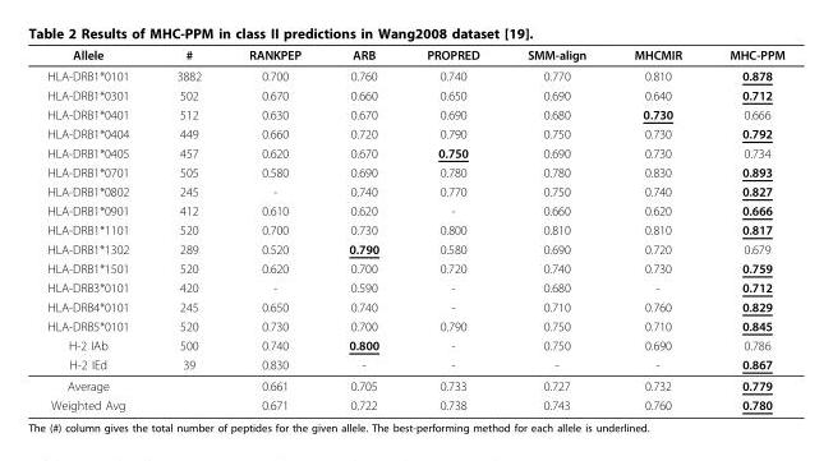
<table><thead><tr><td>Allele</td><td>#</td><td>RANKPEP</td><td>ARB</td><td>PROPRED</td><td>SMM-align</td><td>MHCMIR</td><td>MHC-PPM</td></tr></thead><tbody><tr><td>HLA-DRB1*0101</td><td>3882</td><td>0.700</td><td>0.760</td><td>0.740</td><td>0.770</td><td>0.810</td><td>0.878</td></tr><tr><td>HLA-DRB1*0301</td><td>502</td><td>0.670</td><td>0.660</td><td>0.650</td><td>0.690</td><td>0.640</td><td>0.712</td></tr><tr><td>HLA-DRB1*0401</td><td>512</td><td>0.630</td><td>0.670</td><td>0.690</td><td>0.680</td><td>0.730</td><td>0.666</td></tr><tr><td>HLA-DRB1*0404</td><td>449</td><td>0.660</td><td>0.720</td><td>0.790</td><td>0.750</td><td>0.730</td><td>0.792</td></tr><tr><td>HLA-DRB1*0405</td><td>457</td><td>0.620</td><td>0.670</td><td>0.750</td><td>0.690</td><td>0.730</td><td>0.734</td></tr><tr><td>HLA-DRB1*0701</td><td>505</td><td>0.580</td><td>0.690</td><td>0.780</td><td>0.780</td><td>0.830</td><td>0.893</td></tr><tr><td>HLA-DRB1*0802</td><td>245</td><td>-</td><td>0.740</td><td>0.770</td><td>0.750</td><td>0.740</td><td>0.827</td></tr><tr><td>HLA-DRB1*0901</td><td>412</td><td>0.610</td><td>0.620</td><td>-</td><td>0.660</td><td>0.620</td><td>0.666</td></tr><tr><td>HLA-DRB1*1101</td><td>520</td><td>0.700</td><td>0.730</td><td>0.800</td><td>0.810</td><td>0.810</td><td>0.817</td></tr><tr><td>HLA-DRB1*1302</td><td>289</td><td>0.520</td><td>0.790</td><td>0.580</td><td>0.690</td><td>0.720</td><td>0.679</td></tr><tr><td>HLA-DRB1*1501</td><td>520</td><td>0.620</td><td>0.700</td><td>0.720</td><td>0.740</td><td>0.730</td><td>0.759</td></tr><tr><td>HLA-DRB3*0101</td><td>420</td><td>-</td><td>0.590</td><td>-</td><td>0.680</td><td>-</td><td>0.712</td></tr><tr><td>HLA-DRB4*0101</td><td>245</td><td>0.650</td><td>0.740</td><td>-</td><td>0.710</td><td>0.760</td><td>0.829</td></tr><tr><td>HLA-DRB5*0101</td><td>520</td><td>0.730</td><td>0.700</td><td>0.790</td><td>0.750</td><td>0.710</td><td>0.845</td></tr><tr><td>H-2 IAb</td><td>500</td><td>0.740</td><td>0.800</td><td>-</td><td>0.750</td><td>0.690</td><td>0.786</td></tr><tr><td>H-2 IEd</td><td>39</td><td>0.830</td><td>-</td><td>-</td><td>-</td><td>-</td><td>0.867</td></tr><tr><td>Average</td><td></td><td>0.661</td><td>0.705</td><td>0.733</td><td>0.727</td><td>0.732</td><td>0.779</td></tr><tr><td>Weighted Avg</td><td></td><td>0.671</td><td>0.722</td><td>0.738</td><td>0.743</td><td>0.760</td><td>0.780</td></tr></tbody></table>